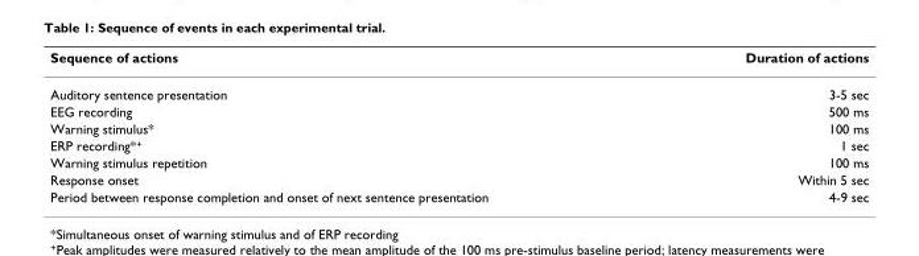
<table><thead><tr><td>Sequence of actions</td><td>Duration of actions</td></tr></thead><tbody><tr><td>Auditory sentence presentation</td><td>3-5 sec</td></tr><tr><td>EEG recording</td><td>500 ms</td></tr><tr><td>Warning stimulus*</td><td>100 ms</td></tr><tr><td>ERP recording*<sup>+</sup></td><td>1 sec</td></tr><tr><td>Warning stimulus repetition</td><td>100 ms</td></tr><tr><td>Response onset</td><td>Within 5 sec</td></tr><tr><td>Period between response completion and onset of next sentence presentation</td><td>4-9 sec</td></tr></tbody></table>